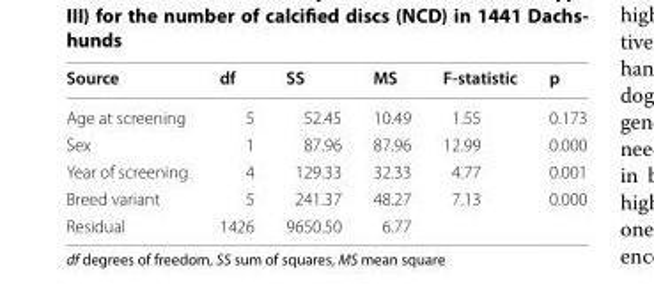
<table><thead><tr><td>Source</td><td>df</td><td>SS</td><td>MS</td><td>F-statistic</td><td>p</td></tr></thead><tbody><tr><td>Age at screening</td><td>5</td><td>52.45</td><td>10.49</td><td>1.55</td><td>0.173</td></tr><tr><td>Sex</td><td>1</td><td>87.96</td><td>87.96</td><td>12.99</td><td>0.000</td></tr><tr><td>Year of screening</td><td>4</td><td>129.33</td><td>32.33</td><td>4.77</td><td>0.001</td></tr><tr><td>Breed variant</td><td>5</td><td>241.37</td><td>48.27</td><td>7.13</td><td>0.000</td></tr><tr><td>Residual</td><td>1426</td><td>9650.50</td><td>6.77</td><td></td><td></td></tr></tbody></table>